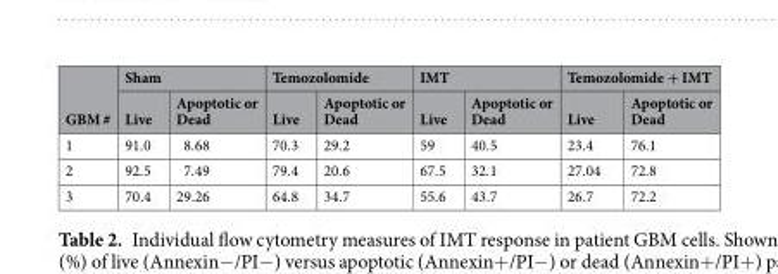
<table><thead><tr><td rowspan="2">GBM #</td><td colspan="2">Sham</td><td colspan="2">Temozolomide</td><td colspan="2">IMT</td><td colspan="2">Temozolomide + IMT</td></tr><tr><td>Live</td><td>Apoptotic or Dead</td><td>Live</td><td>Apoptotic or Dead</td><td>Live</td><td>Apoptotic or Dead</td><td>Live</td><td>Apoptotic or Dead</td></tr></thead><tbody><tr><td>1</td><td>91.0</td><td>8.68</td><td>70.3</td><td>29.2</td><td>59</td><td>40.5</td><td>23.4</td><td>76.1</td></tr><tr><td>2</td><td>92.5</td><td>7.49</td><td>79.4</td><td>20.6</td><td>67.5</td><td>32.1</td><td>27.04</td><td>72.8</td></tr><tr><td>3</td><td>70.4</td><td>29.26</td><td>64.8</td><td>34.7</td><td>55.6</td><td>43.7</td><td>26.7</td><td>72.2</td></tr></tbody></table>